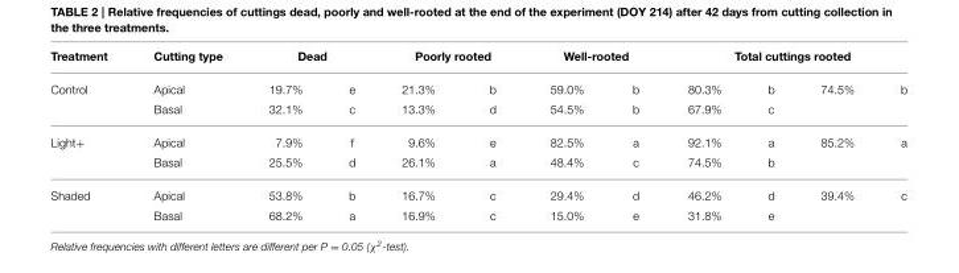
<table><thead><tr><td rowspan="2">Treatment Control</td><td rowspan="2">Cutting type Apical</td><td colspan="2">Dead</td><td colspan="2">Poorly rooted</td><td colspan="2">Well-rooted</td><td colspan="4">Total cuttings rooted</td></tr><tr><td>19.7%</td><td>e</td><td>21.3%</td><td>b</td><td>59.0%</td><td>b</td><td>80.3%</td><td>b</td><td>74.5%</td><td>b</td></tr></thead><tbody><tr><td></td><td>Basal</td><td>32.1%</td><td>c</td><td>13.3%</td><td>d</td><td>54.5%</td><td>b</td><td>67.9%</td><td>c</td><td></td><td></td></tr><tr><td rowspan="2">Light+</td><td>Apical</td><td>7.9%</td><td>f</td><td>9.6%</td><td>e</td><td>82.5%</td><td>a</td><td>92.1%</td><td>a</td><td>85.2%</td><td>a</td></tr><tr><td>Basal</td><td>25.5%</td><td>d</td><td>26.1%</td><td>a</td><td>48.4%</td><td>c</td><td>74.5%</td><td>b</td><td></td><td></td></tr><tr><td rowspan="2">Shaded</td><td>Apical</td><td>53.8%</td><td>b</td><td>16.7%</td><td>c</td><td>29.4%</td><td>d</td><td>46.2%</td><td>d</td><td>39.4%</td><td>c</td></tr><tr><td>Basal</td><td>68.2%</td><td>a</td><td>16.9%</td><td>c</td><td>15.0%</td><td>e</td><td>31.8%</td><td>e</td><td></td><td></td></tr></tbody></table>